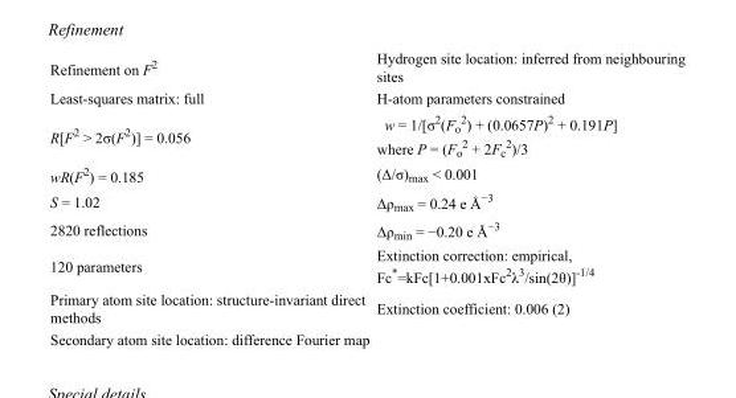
<table><tbody><tr><td>Refinement on F<sup>2</sup></td><td>Hydrogen site location: inferred from neighbouring sites</td></tr><tr><td>Least-squares matrix: full</td><td>H-atom parameters constrained</td></tr><tr><td>R[F<sup>2</sup> &gt; 2σ(F<sup>2</sup>)] = 0.056</td><td>w = 1/[σ<sup>2</sup>(F<sub>o</sub> <sup>2</sup>) + (0.0657P)<sup>2</sup> + 0.191P] where P = (F<sub>o</sub> <sup>2</sup> + 2F<sub>c</sub> <sup>2</sup>)/3</td></tr><tr><td>wR(F<sup>2</sup>) = 0.185</td><td>(Δ/σ)<sub>max</sub> &lt; 0.001</td></tr><tr><td>S = 1.02</td><td>Δρ<sub>max</sub> = 0.24 e Å<sup>−3</sup></td></tr><tr><td>2820 reflections</td><td>Δρ<sub>min</sub> = −0.20 e Å<sup>−3</sup></td></tr><tr><td>120 parameters</td><td>Extinction correction: empirical, Fc*=kFc[1+0.001xFc<sup>2</sup>λ<sup>3</sup>/sin(2θ)]<sup>-1/4</sup></td></tr><tr><td>Primary atom site location: structure-invariant direct methods</td><td>Extinction coefficient: 0.006 (2)</td></tr><tr><td>Secondary atom site location: difference Fourier map</td><td></td></tr></tbody></table>